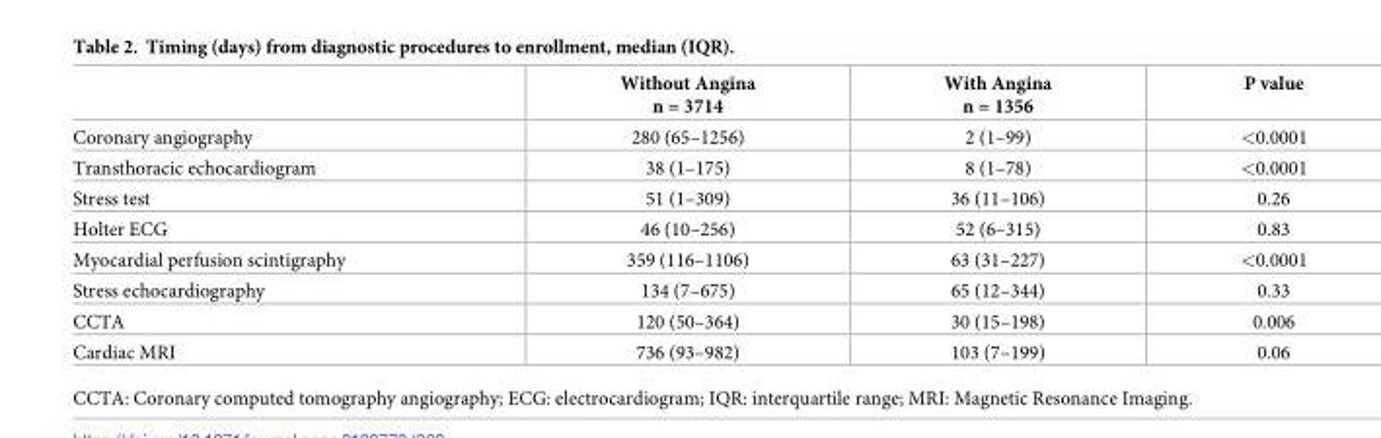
<table><thead><tr><td></td><td>Without Angina n = 3714</td><td>With Angina n = 1356</td><td>P value</td></tr></thead><tbody><tr><td>Coronary angiography</td><td>280 (65–1256)</td><td>2 (1–99)</td><td>&lt;0.0001</td></tr><tr><td>Transthoracic echocardiogram</td><td>38 (1–175)</td><td>8 (1–78)</td><td>&lt;0.0001</td></tr><tr><td>Stress test</td><td>51 (1–309)</td><td>36 (11–106)</td><td>0.26</td></tr><tr><td>Holter ECG</td><td>46 (10–256)</td><td>52 (6–315)</td><td>0.83</td></tr><tr><td>Myocardial perfusion scintigraphy</td><td>359 (116–1106)</td><td>63 (31–227)</td><td>&lt;0.0001</td></tr><tr><td>Stress echocardiography</td><td>134 (7–675)</td><td>65 (12–344)</td><td>0.33</td></tr><tr><td>CCTA</td><td>120 (50–364)</td><td>30 (15–198)</td><td>0.006</td></tr><tr><td>Cardiac MRI</td><td>736 (93–982)</td><td>103 (7–199)</td><td>0.06</td></tr></tbody></table>